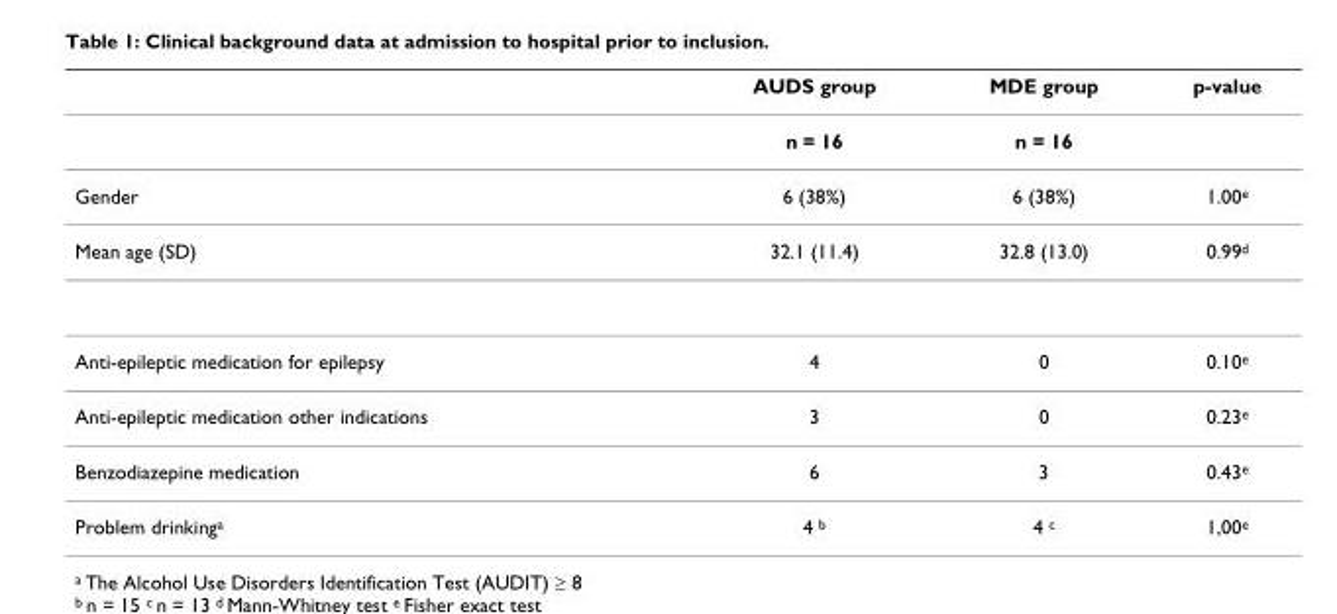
<table><thead><tr><td></td><td>AUDS group</td><td>MDE group</td><td>p-value</td></tr></thead><tbody><tr><td></td><td>n = 16</td><td>n = 16</td><td></td></tr><tr><td>Gender</td><td>6 (38%)</td><td>6 (38%)</td><td>1.00e</td></tr><tr><td>Mean age (SD)</td><td>32.1 (11.4)</td><td>32.8 (13.0)</td><td>0.99d</td></tr><tr><td>Anti-epileptic medication for epilepsy</td><td>4</td><td>0</td><td>0.10e</td></tr><tr><td>Anti-epileptic medication other indications</td><td>3</td><td>0</td><td>0.23e</td></tr><tr><td>Benzodiazepine medication</td><td>6</td><td>3</td><td>0.43e</td></tr><tr><td>Problem drinkinga</td><td>4 b</td><td>4 c</td><td>1,00e</td></tr></tbody></table>